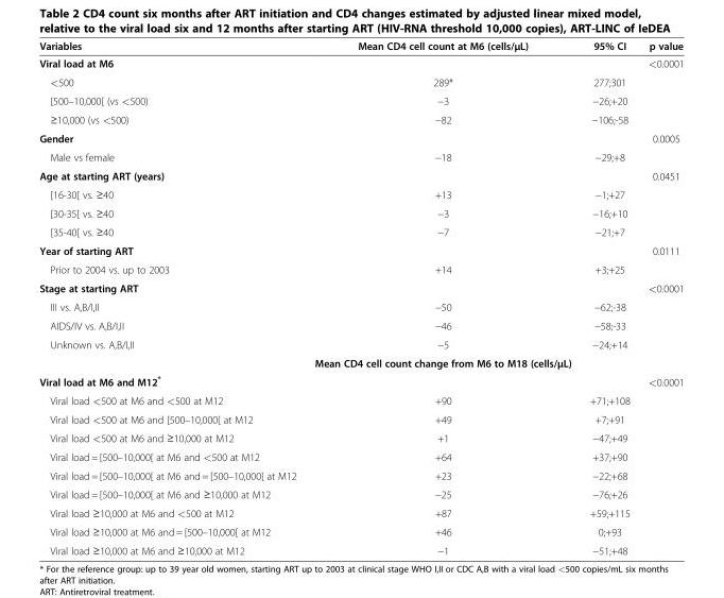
<table><thead><tr><td>Variables</td><td>Mean CD4 cell count at M6 (cells/μL)</td><td>95% CI</td><td>p value</td></tr></thead><tbody><tr><td>Viral load at M6</td><td></td><td></td><td>&lt;0.0001</td></tr><tr><td>&lt;500</td><td>289*</td><td>277;301</td><td></td></tr><tr><td>[500–10,000[ (vs &lt;500)</td><td>−3</td><td>−26;+20</td><td></td></tr><tr><td>≥10,000 (vs &lt;500)</td><td>−82</td><td>−106;-58</td><td></td></tr><tr><td>Gender</td><td></td><td></td><td>0.0005</td></tr><tr><td>Male vs female</td><td>−18</td><td>−29;+8</td><td></td></tr><tr><td>Age at starting ART (years)</td><td></td><td></td><td>0.0451</td></tr><tr><td>[16-30[ vs. ≥40</td><td>+13</td><td>−1;+27</td><td></td></tr><tr><td>[30-35[ vs. ≥40</td><td>−3</td><td>−16;+10</td><td></td></tr><tr><td>[35-40[ vs. ≥40</td><td>−7</td><td>−21;+7</td><td></td></tr><tr><td>Year of starting ART</td><td></td><td></td><td>0.0111</td></tr><tr><td>Prior to 2004 vs. up to 2003</td><td>+14</td><td>+3;+25</td><td></td></tr><tr><td>Stage at starting ART</td><td></td><td></td><td>&lt;0.0001</td></tr><tr><td>III vs. A,B/I,II</td><td>−50</td><td>−62;-38</td><td></td></tr><tr><td>AIDS/IV vs. A,B/I,II</td><td>−46</td><td>−58;-33</td><td></td></tr><tr><td rowspan="2">Unknown vs. A,B/I,II</td><td>−5</td><td>−24;+14</td><td></td></tr><tr><td>Mean CD4 cell count change from M6 to M18 (cells/μL)</td><td></td><td></td></tr><tr><td>Viral load at M6 and M12*</td><td></td><td></td><td>&lt;0.0001</td></tr><tr><td>Viral load &lt;500 at M6 and &lt;500 at M12</td><td>+90</td><td>+71;+108</td><td></td></tr><tr><td>Viral load &lt;500 at M6 and [500–10,000[ at M12</td><td>+49</td><td>+7;+91</td><td></td></tr><tr><td>Viral load &lt;500 at M6 and ≥10,000 at M12</td><td>+1</td><td>−47;+49</td><td></td></tr><tr><td>Viral load = [500–10,000[ at M6 and &lt;500 at M12</td><td>+64</td><td>+37;+90</td><td></td></tr><tr><td>Viral load = [500–10,000[ at M6 and = [500–10,000[ at M12</td><td>+23</td><td>−22;+68</td><td></td></tr><tr><td>Viral load = [500–10,000[ at M6 and ≥10,000 at M12</td><td>−25</td><td>−76;+26</td><td></td></tr><tr><td>Viral load ≥10,000 at M6 and &lt;500 at M12</td><td>+87</td><td>+59;+115</td><td></td></tr><tr><td>Viral load ≥10,000 at M6 and = [500–10,000[ at M12</td><td>+46</td><td>0;+93</td><td></td></tr><tr><td>Viral load ≥10,000 at M6 and ≥10,000 at M12</td><td>−1</td><td>−51;+48</td><td></td></tr></tbody></table>